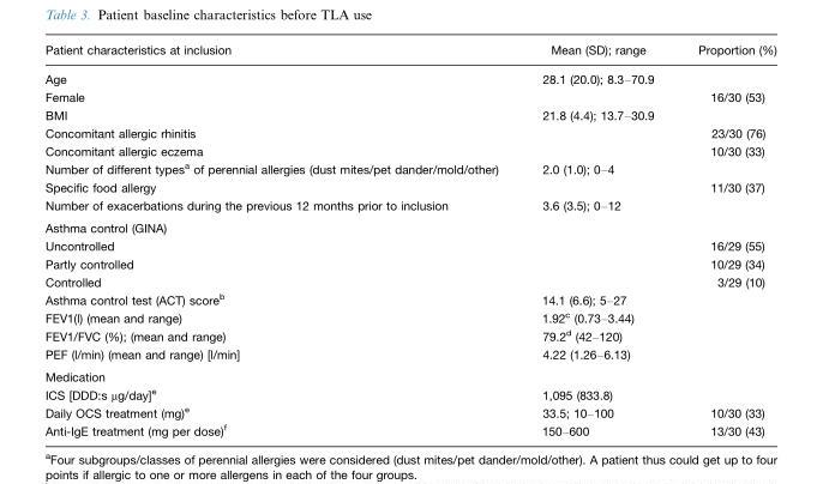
<table><thead><tr><td>Patient characteristics at inclusion</td><td>Mean (SD); range</td><td>Proportion (%)</td></tr></thead><tbody><tr><td>Age</td><td>28.1 (20.0); 8.3–70.9</td><td></td></tr><tr><td>Female</td><td></td><td>16/30 (53)</td></tr><tr><td>BMI</td><td>21.8 (4.4); 13.7–30.9</td><td></td></tr><tr><td>Concomitant allergic rhinitis</td><td></td><td>23/30 (76)</td></tr><tr><td>Concomitant allergic eczema</td><td></td><td>10/30 (33)</td></tr><tr><td>Number of different types<sup>a</sup> of perennial allergies (dust mites/pet dander/mold/other)</td><td>2.0 (1.0); 0–4</td><td></td></tr><tr><td>Specific food allergy</td><td></td><td>11/30 (37)</td></tr><tr><td>Number of exacerbations during the previous 12 months prior to inclusion</td><td>3.6 (3.5); 0–12</td><td></td></tr><tr><td colspan="3">Asthma control (GINA)</td></tr><tr><td>Uncontrolled</td><td></td><td>16/29 (55)</td></tr><tr><td>Partly controlled</td><td></td><td>10/29 (34)</td></tr><tr><td>Controlled</td><td></td><td>3/29 (10)</td></tr><tr><td>Asthma control test (ACT) score<sup>b</sup></td><td>14.1 (6.6); 5–27</td><td></td></tr><tr><td>FEV1(l) (mean and range)</td><td>1.92<sup>c</sup> (0.73–3.44)</td><td></td></tr><tr><td>FEV1/FVC (%); (mean and range)</td><td>79.2<sup>d</sup> (42–120)</td><td></td></tr><tr><td>PEF (l/min) (mean and range) [l/min]</td><td>4.22 (1.26–6.13)</td><td></td></tr><tr><td colspan="3">Medication</td></tr><tr><td>ICS [DDD:s µg/day]<sup>e</sup></td><td>1,095 (833.8)</td><td></td></tr><tr><td>Daily OCS treatment (mg)<sup>e</sup></td><td>33.5; 10–100</td><td>10/30 (33)</td></tr><tr><td>Anti-IgE treatment (mg per dose)<sup>f</sup></td><td>150–600</td><td>13/30 (43)</td></tr></tbody></table>